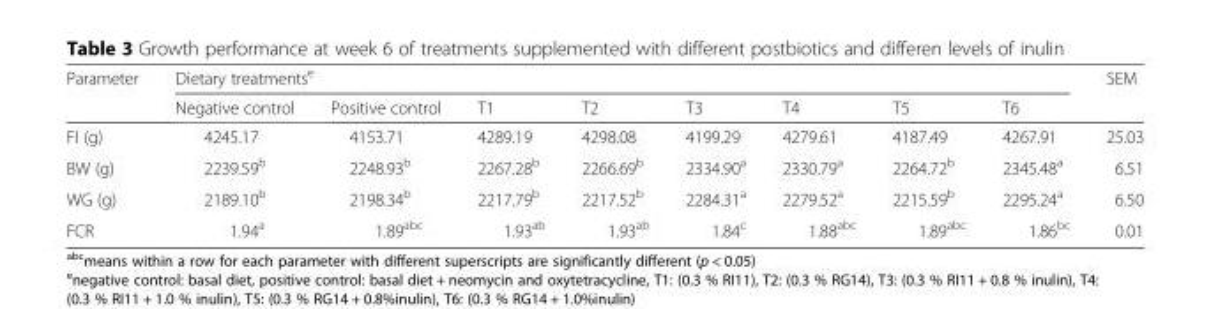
<table><thead><tr><td rowspan="2">Parameter</td><td colspan="8">Dietary treatments<sup>e</sup></td><td rowspan="2">SEM</td></tr><tr><td>Negative control</td><td>Positive control</td><td>T1</td><td>T2</td><td>T3</td><td>T4</td><td>T5</td><td>T6</td></tr></thead><tbody><tr><td>FI (g)</td><td>4245.17</td><td>4153.71</td><td>4289.19</td><td>4298.08</td><td>4199.29</td><td>4279.61</td><td>4187.49</td><td>4267.91</td><td>25.03</td></tr><tr><td>BW (g)</td><td>2239.59<sup>b</sup></td><td>2248.93<sup>b</sup></td><td>2267.28<sup>b</sup></td><td>2266.69<sup>b</sup></td><td>2334.90<sup>a</sup></td><td>2330.79<sup>a</sup></td><td>2264.72<sup>b</sup></td><td>2345.48<sup>a</sup></td><td>6.51</td></tr><tr><td>WG (g)</td><td>2189.10<sup>b</sup></td><td>2198.34<sup>b</sup></td><td>2217.79<sup>b</sup></td><td>2217.52<sup>b</sup></td><td>2284.31<sup>a</sup></td><td>2279.52<sup>a</sup></td><td>2215.59<sup>b</sup></td><td>2295.24<sup>a</sup></td><td>6.50</td></tr><tr><td>FCR</td><td>1.94<sup>a</sup></td><td>1.89<sup>abc</sup></td><td>1.93<sup>ab</sup></td><td>1.93<sup>ab</sup></td><td>1.84<sup>c</sup></td><td>1.88<sup>abc</sup></td><td>1.89<sup>abc</sup></td><td>1.86<sup>bc</sup></td><td>0.01</td></tr></tbody></table>